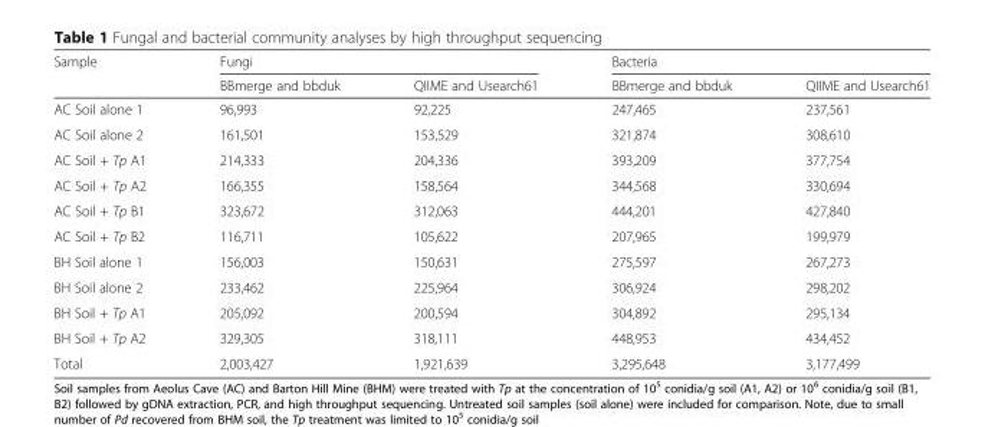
<table><thead><tr><td rowspan="2">Sample</td><td colspan="2">Fungi</td><td colspan="2">Bacteria</td></tr><tr><td>BBmerge and bbduk</td><td>QIIME and Usearch61</td><td>BBmerge and bbduk</td><td>QIIME and Usearch61</td></tr></thead><tbody><tr><td>AC Soil alone 1</td><td>96,993</td><td>92,225</td><td>247,465</td><td>237,561</td></tr><tr><td>AC Soil alone 2</td><td>161,501</td><td>153,529</td><td>321,874</td><td>308,610</td></tr><tr><td>AC Soil + Tp A1</td><td>214,333</td><td>204,336</td><td>393,209</td><td>377,754</td></tr><tr><td>AC Soil + Tp A2</td><td>166,355</td><td>158,564</td><td>344,568</td><td>330,694</td></tr><tr><td>AC Soil + Tp B1</td><td>323,672</td><td>312,063</td><td>444,201</td><td>427,840</td></tr><tr><td>AC Soil + Tp B2</td><td>116,711</td><td>105,622</td><td>207,965</td><td>199,979</td></tr><tr><td>BH Soil alone 1</td><td>156,003</td><td>150,631</td><td>275,597</td><td>267,273</td></tr><tr><td>BH Soil alone 2</td><td>233,462</td><td>225,964</td><td>306,924</td><td>298,202</td></tr><tr><td>BH Soil + Tp A1</td><td>205,092</td><td>200,594</td><td>304,892</td><td>295,134</td></tr><tr><td>BH Soil + Tp A2</td><td>329,305</td><td>318,111</td><td>448,953</td><td>434,452</td></tr><tr><td>Total</td><td>2,003,427</td><td>1,921,639</td><td>3,295,648</td><td>3,177,499</td></tr></tbody></table>